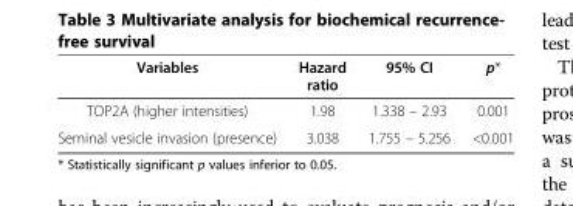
<table><thead><tr><td>Variables</td><td>Hazard ratio</td><td>95% CI</td><td>p*</td></tr></thead><tbody><tr><td>TOP2A (higher intensities)</td><td>1.98</td><td>1.338 – 2.93</td><td>0.001</td></tr><tr><td>Seminal vesicle invasion (presence)</td><td>3.038</td><td>1.755 – 5.256</td><td>&lt;0.001</td></tr></tbody></table>